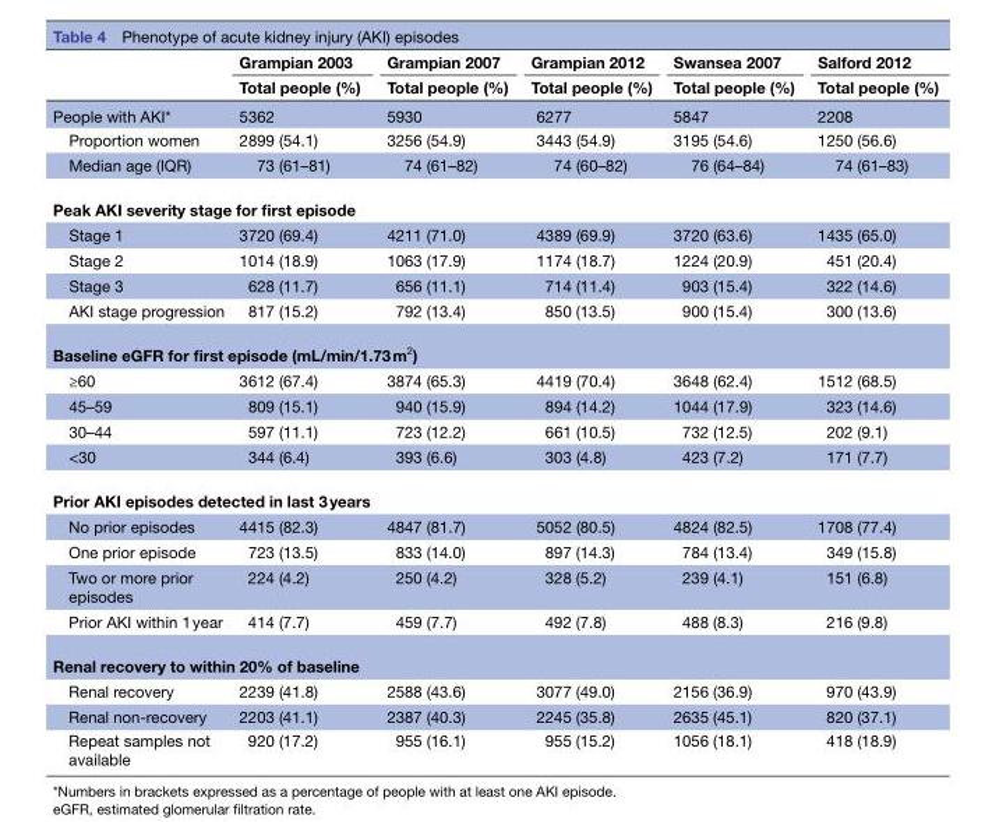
<table><thead><tr><td rowspan="2"></td><td rowspan="2">Grampian 2003 Total people (%)</td><td rowspan="2">Grampian 2007 Total people (%)</td><td rowspan="2">Grampian 2012 Total people (%)</td><td rowspan="2">Swansea 2007 Total people (%)</td><td rowspan="2">Salford 2012 Total people (%)</td></tr><tr></tr></thead><tbody><tr><td>People with AKI*</td><td>5362</td><td>5930</td><td>6277</td><td>5847</td><td>2208</td></tr><tr><td>Proportion women</td><td>2899 (54.1)</td><td>3256 (54.9)</td><td>3443 (54.9)</td><td>3195 (54.6)</td><td>1250 (56.6)</td></tr><tr><td>Median age (IQR)</td><td>73 (61–81)</td><td>74 (61–82)</td><td>74 (60–82)</td><td>76 (64–84)</td><td>74 (61–83)</td></tr><tr><td colspan="6">Peak AKI severity stage for first episode</td></tr><tr><td>Stage 1</td><td>3720 (69.4)</td><td>4211 (71.0)</td><td>4389 (69.9)</td><td>3720 (63.6)</td><td>1435 (65.0)</td></tr><tr><td>Stage 2</td><td>1014 (18.9)</td><td>1063 (17.9)</td><td>1174 (18.7)</td><td>1224 (20.9)</td><td>451 (20.4)</td></tr><tr><td>Stage 3</td><td>628 (11.7)</td><td>656 (11.1)</td><td>714 (11.4)</td><td>903 (15.4)</td><td>322 (14.6)</td></tr><tr><td>AKI stage progression</td><td>817 (15.2)</td><td>792 (13.4)</td><td>850 (13.5)</td><td>900 (15.4)</td><td>300 (13.6)</td></tr><tr><td colspan="6">Baseline eGFR for first episode (mL/min/1.73 m<sup>2</sup>)</td></tr><tr><td>≥60</td><td>3612 (67.4)</td><td>3874 (65.3)</td><td>4419 (70.4)</td><td>3648 (62.4)</td><td>1512 (68.5)</td></tr><tr><td>45–59</td><td>809 (15.1)</td><td>940 (15.9)</td><td>894 (14.2)</td><td>1044 (17.9)</td><td>323 (14.6)</td></tr><tr><td>30–44</td><td>597 (11.1)</td><td>723 (12.2)</td><td>661 (10.5)</td><td>732 (12.5)</td><td>202 (9.1)</td></tr><tr><td>&lt;30</td><td>344 (6.4)</td><td>393 (6.6)</td><td>303 (4.8)</td><td>423 (7.2)</td><td>171 (7.7)</td></tr><tr><td colspan="6">Prior AKI episodes detected in last 3 years</td></tr><tr><td>No prior episodes</td><td>4415 (82.3)</td><td>4847 (81.7)</td><td>5052 (80.5)</td><td>4824 (82.5)</td><td>1708 (77.4)</td></tr><tr><td>One prior episode</td><td>723 (13.5)</td><td>833 (14.0)</td><td>897 (14.3)</td><td>784 (13.4)</td><td>349 (15.8)</td></tr><tr><td>Two or more prior episodes</td><td>224 (4.2)</td><td>250 (4.2)</td><td>328 (5.2)</td><td>239 (4.1)</td><td>151 (6.8)</td></tr><tr><td>Prior AKI within 1 year</td><td>414 (7.7)</td><td>459 (7.7)</td><td>492 (7.8)</td><td>488 (8.3)</td><td>216 (9.8)</td></tr><tr><td colspan="6">Renal recovery to within 20% of baseline</td></tr><tr><td>Renal recovery</td><td>2239 (41.8)</td><td>2588 (43.6)</td><td>3077 (49.0)</td><td>2156 (36.9)</td><td>970 (43.9)</td></tr><tr><td>Renal non-recovery</td><td>2203 (41.1)</td><td>2387 (40.3)</td><td>2245 (35.8)</td><td>2635 (45.1)</td><td>820 (37.1)</td></tr><tr><td>Repeat samples not available</td><td>920 (17.2)</td><td>955 (16.1)</td><td>955 (15.2)</td><td>1056 (18.1)</td><td>418 (18.9)</td></tr></tbody></table>